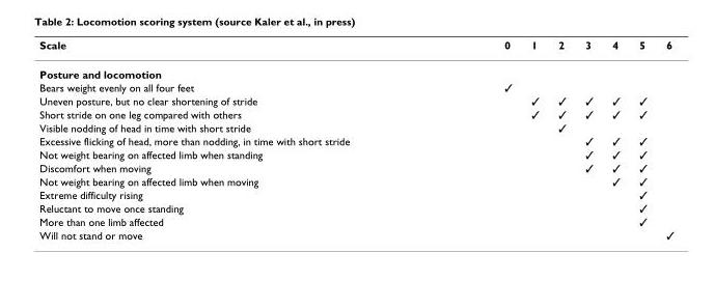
<table><thead><tr><td>Scale</td><td>0</td><td>1</td><td>2</td><td>3</td><td>4</td><td>5</td><td>6</td></tr></thead><tbody><tr><td colspan="8">Posture and locomotion</td></tr><tr><td>Bears weight evenly on all four feet</td><td>✓</td><td></td><td></td><td></td><td></td><td></td><td></td></tr><tr><td>Uneven posture, but no clear shortening of stride</td><td></td><td>✓</td><td>✓</td><td>✓</td><td>✓</td><td>✓</td><td></td></tr><tr><td>Short stride on one leg compared with others</td><td></td><td>✓</td><td>✓</td><td>✓</td><td>✓</td><td>✓</td><td></td></tr><tr><td>Visible nodding of head in time with short stride</td><td></td><td></td><td>✓</td><td></td><td></td><td></td><td></td></tr><tr><td>Excessive flicking of head, more than nodding, in time with short stride</td><td></td><td></td><td></td><td>✓</td><td>✓</td><td>✓</td><td></td></tr><tr><td>Not weight bearing on affected limb when standing</td><td></td><td></td><td></td><td>✓</td><td>✓</td><td>✓</td><td></td></tr><tr><td>Discomfort when moving</td><td></td><td></td><td></td><td>✓</td><td>✓</td><td>✓</td><td></td></tr><tr><td>Not weight bearing on affected limb when moving</td><td></td><td></td><td></td><td></td><td>✓</td><td>✓</td><td></td></tr><tr><td>Extreme difficulty rising</td><td></td><td></td><td></td><td></td><td></td><td>✓</td><td></td></tr><tr><td>Reluctant to move once standing</td><td></td><td></td><td></td><td></td><td></td><td>✓</td><td></td></tr><tr><td>More than one limb affected</td><td></td><td></td><td></td><td></td><td></td><td>✓</td><td></td></tr><tr><td>Will not stand or move</td><td></td><td></td><td></td><td></td><td></td><td></td><td>✓</td></tr></tbody></table>